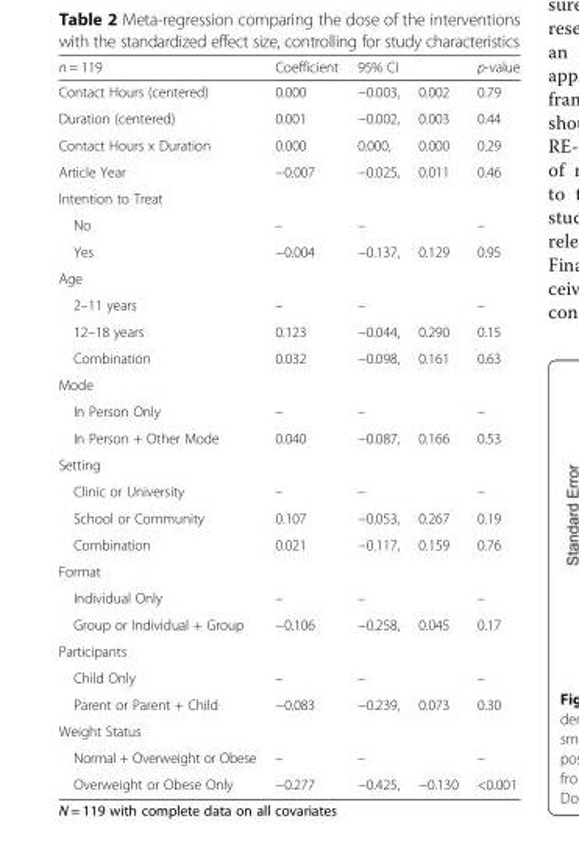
<table><thead><tr><td rowspan="2">n = 119 Contact Hours (centered)</td><td rowspan="2">Coefficient 0.000</td><td colspan="2">95% CI</td><td rowspan="2">p-value 0.79</td></tr><tr><td>−0.003,</td><td>0.002</td></tr></thead><tbody><tr><td>Duration (centered)</td><td>0.001</td><td>−0.002,</td><td>0.003</td><td>0.44</td></tr><tr><td>Contact Hours x Duration</td><td>0.000</td><td>0.000,</td><td>0.000</td><td>0.29</td></tr><tr><td>Article Year</td><td>−0.007</td><td>−0.025,</td><td>0.011</td><td>0.46</td></tr><tr><td colspan="5">Intention to Treat</td></tr><tr><td>No</td><td>–</td><td>–</td><td></td><td>–</td></tr><tr><td>Yes</td><td>−0.004</td><td>−0.137,</td><td>0.129</td><td>0.95</td></tr><tr><td colspan="5">Age</td></tr><tr><td>2–11 years</td><td>–</td><td>–</td><td></td><td>–</td></tr><tr><td>12–18 years</td><td>0.123</td><td>−0.044,</td><td>0.290</td><td>0.15</td></tr><tr><td>Combination</td><td>0.032</td><td>−0.098,</td><td>0.161</td><td>0.63</td></tr><tr><td colspan="5">Mode</td></tr><tr><td>In Person Only</td><td>–</td><td>–</td><td></td><td>–</td></tr><tr><td>In Person + Other Mode</td><td>0.040</td><td>−0.087,</td><td>0.166</td><td>0.53</td></tr><tr><td colspan="5">Setting</td></tr><tr><td>Clinic or University</td><td>–</td><td>–</td><td></td><td>–</td></tr><tr><td>School or Community</td><td>0.107</td><td>−0.053,</td><td>0.267</td><td>0.19</td></tr><tr><td>Combination</td><td>0.021</td><td>−0.117,</td><td>0.159</td><td>0.76</td></tr><tr><td colspan="5">Format</td></tr><tr><td>Individual Only</td><td>–</td><td>–</td><td></td><td>–</td></tr><tr><td>Group or Individual + Group</td><td>−0.106</td><td>−0.258,</td><td>0.045</td><td>0.17</td></tr><tr><td colspan="5">Participants</td></tr><tr><td>Child Only</td><td>–</td><td>–</td><td></td><td>–</td></tr><tr><td>Parent or Parent + Child</td><td>−0.083</td><td>−0.239,</td><td>0.073</td><td>0.30</td></tr><tr><td colspan="5">Weight Status</td></tr><tr><td>Normal + Overweight or Obese</td><td>–</td><td>–</td><td></td><td>–</td></tr><tr><td>Overweight or Obese Only</td><td>−0.277</td><td>−0.425,</td><td>−0.130</td><td>&lt;0.001</td></tr></tbody></table>